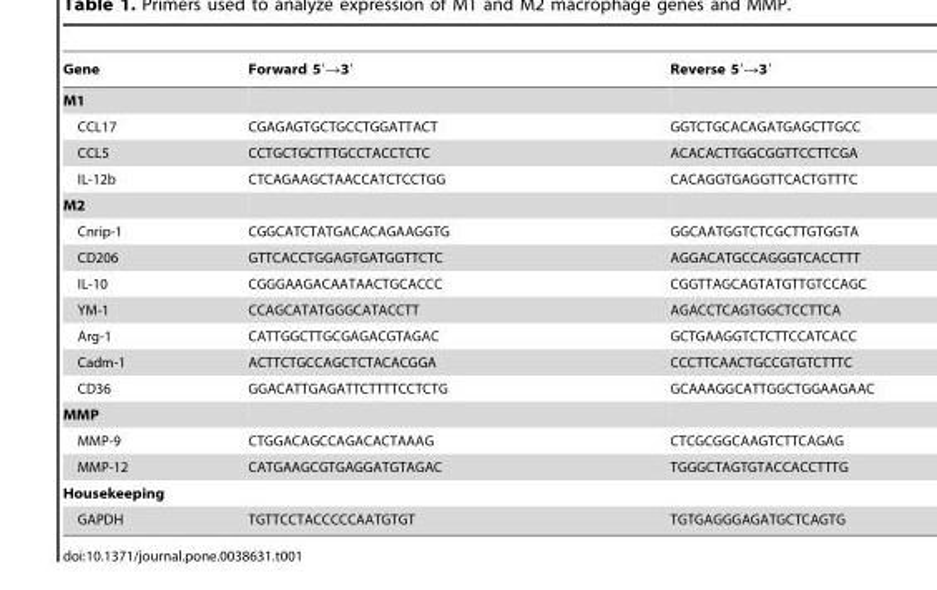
<table><thead><tr><td>Gene</td><td>Forward 5′→3′</td><td>Reverse 5′→3′</td></tr></thead><tbody><tr><td colspan="3">M1</td></tr><tr><td>CCL17</td><td>CGAGAGTGCTGCCTGGATTACT</td><td>GGTCTGCACAGATGAGCTTGCC</td></tr><tr><td>CCL5</td><td>CCTGCTGCTTTGCCTACCTCTC</td><td>ACACACTTGGCGGTTCCTTCGA</td></tr><tr><td>IL-12b</td><td>CTCAGAAGCTAACCATCTCCTGG</td><td>CACAGGTGAGGTTCACTGTTTC</td></tr><tr><td colspan="3">M2</td></tr><tr><td>Cnrip-1</td><td>CGGCATCTATGACACAGAAGGTG</td><td>GGCAATGGTCTCGCTTGTGGTA</td></tr><tr><td>CD206</td><td>GTTCACCTGGAGTGATGGTTCTC</td><td>AGGACATGCCAGGGTCACCTTT</td></tr><tr><td>IL-10</td><td>CGGGAAGACAATAACTGCACCC</td><td>CGGTTAGCAGTATGTTGTCCAGC</td></tr><tr><td>YM-1</td><td>CCAGCATATGGGCATACCTT</td><td>AGACCTCAGTGGCTCCTTCA</td></tr><tr><td>Arg-1</td><td>CATTGGCTTGCGAGACGTAGAC</td><td>GCTGAAGGTCTCTTCCATCACC</td></tr><tr><td>Cadm-1</td><td>ACTTCTGCCAGCTCTACACGGA</td><td>CCCTTCAACTGCCGTGTCTTTC</td></tr><tr><td>CD36</td><td>GGACATTGAGATTCTTTTCCTCTG</td><td>GCAAAGGCATTGGCTGGAAGAAC</td></tr><tr><td colspan="3">MMP</td></tr><tr><td>MMP-9</td><td>CTGGACAGCCAGACACTAAAG</td><td>CTCGCGGCAAGTCTTCAGAG</td></tr><tr><td>MMP-12</td><td>CATGAAGCGTGAGGATGTAGAC</td><td>TGGGCTAGTGTACCACCTTTG</td></tr><tr><td colspan="3">Housekeeping</td></tr><tr><td>GAPDH</td><td>TGTTCCTACCCCCAATGTGT</td><td>TGTGAGGGAGATGCTCAGTG</td></tr></tbody></table>